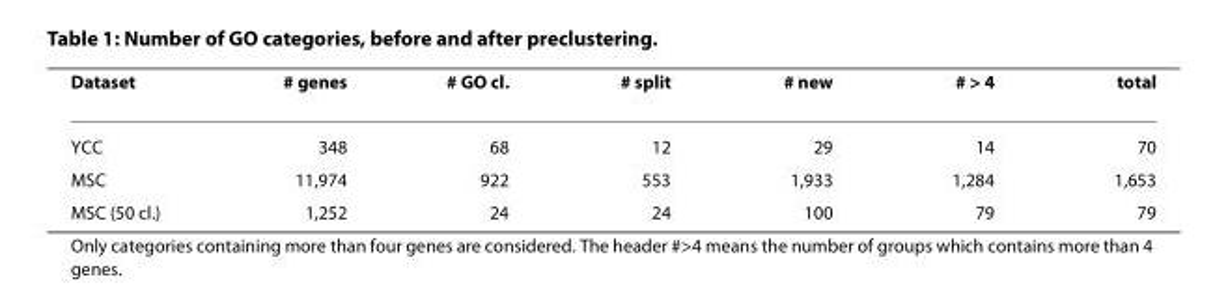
<table><thead><tr><td>Dataset</td><td># genes</td><td># GO cl.</td><td># split</td><td># new</td><td># &gt; 4</td><td>total</td></tr></thead><tbody><tr><td>YCC</td><td>348</td><td>68</td><td>12</td><td>29</td><td>14</td><td>70</td></tr><tr><td>MSC</td><td>11,974</td><td>922</td><td>553</td><td>1,933</td><td>1,284</td><td>1,653</td></tr><tr><td>MSC (50 cl.)</td><td>1,252</td><td>24</td><td>24</td><td>100</td><td>79</td><td>79</td></tr></tbody></table>